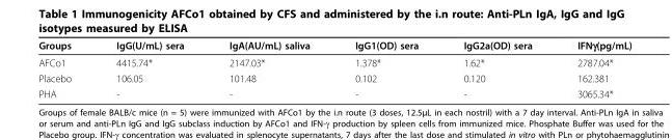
<table><thead><tr><td>Groups</td><td>IgG(U/mL) sera</td><td>IgA(AU/mL) saliva</td><td>IgG1(OD) sera</td><td>IgG2a(OD) sera</td><td>IFNγ(pg/mL)</td></tr></thead><tbody><tr><td>AFCo1</td><td>4415.74*</td><td>2147.03*</td><td>1.378*</td><td>1.62*</td><td>2787.04*</td></tr><tr><td>Placebo</td><td>106.05</td><td>101.48</td><td>0.102</td><td>0.120</td><td>162.381</td></tr><tr><td>PHA</td><td>-</td><td>-</td><td>-</td><td>-</td><td>3065.34*</td></tr></tbody></table>